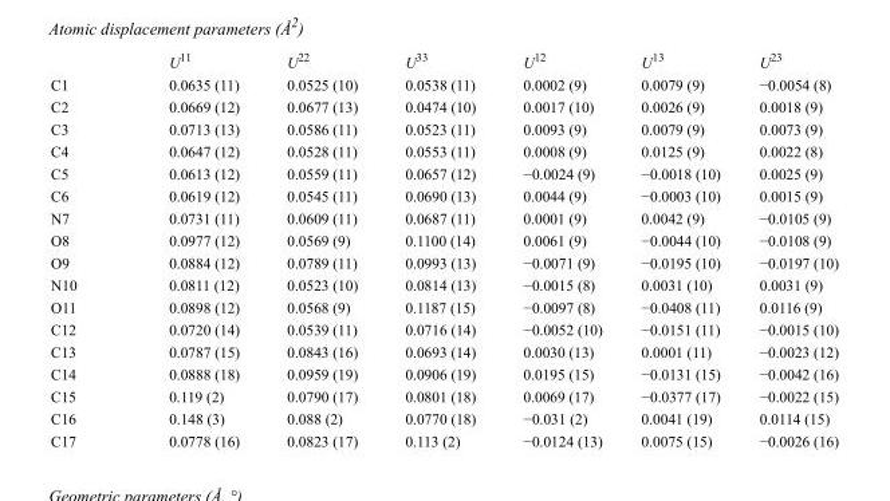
<table><thead><tr><td></td><td>U<sup>11</sup></td><td>U<sup>22</sup></td><td>U<sup>33</sup></td><td>U<sup>12</sup></td><td>U<sup>13</sup></td><td>U<sup>23</sup></td></tr></thead><tbody><tr><td>C1</td><td>0.0635 (11)</td><td>0.0525 (10)</td><td>0.0538 (11)</td><td>0.0002 (9)</td><td>0.0079 (9)</td><td>−0.0054 (8)</td></tr><tr><td>C2</td><td>0.0669 (12)</td><td>0.0677 (13)</td><td>0.0474 (10)</td><td>0.0017 (10)</td><td>0.0026 (9)</td><td>0.0018 (9)</td></tr><tr><td>C3</td><td>0.0713 (13)</td><td>0.0586 (11)</td><td>0.0523 (11)</td><td>0.0093 (9)</td><td>0.0079 (9)</td><td>0.0073 (9)</td></tr><tr><td>C4</td><td>0.0647 (12)</td><td>0.0528 (11)</td><td>0.0553 (11)</td><td>0.0008 (9)</td><td>0.0125 (9)</td><td>0.0022 (8)</td></tr><tr><td>C5</td><td>0.0613 (12)</td><td>0.0559 (11)</td><td>0.0657 (12)</td><td>−0.0024 (9)</td><td>−0.0018 (10)</td><td>0.0025 (9)</td></tr><tr><td>C6</td><td>0.0619 (12)</td><td>0.0545 (11)</td><td>0.0690 (13)</td><td>0.0044 (9)</td><td>−0.0003 (10)</td><td>0.0015 (9)</td></tr><tr><td>N7</td><td>0.0731 (11)</td><td>0.0609 (11)</td><td>0.0687 (11)</td><td>0.0001 (9)</td><td>0.0042 (9)</td><td>−0.0105 (9)</td></tr><tr><td>O8</td><td>0.0977 (12)</td><td>0.0569 (9)</td><td>0.1100 (14)</td><td>0.0061 (9)</td><td>−0.0044 (10)</td><td>−0.0108 (9)</td></tr><tr><td>O9</td><td>0.0884 (12)</td><td>0.0789 (11)</td><td>0.0993 (13)</td><td>−0.0071 (9)</td><td>−0.0195 (10)</td><td>−0.0197 (10)</td></tr><tr><td>N10</td><td>0.0811 (12)</td><td>0.0523 (10)</td><td>0.0814 (13)</td><td>−0.0015 (8)</td><td>0.0031 (10)</td><td>0.0031 (9)</td></tr><tr><td>O11</td><td>0.0898 (12)</td><td>0.0568 (9)</td><td>0.1187 (15)</td><td>−0.0097 (8)</td><td>−0.0408 (11)</td><td>0.0116 (9)</td></tr><tr><td>C12</td><td>0.0720 (14)</td><td>0.0539 (11)</td><td>0.0716 (14)</td><td>−0.0052 (10)</td><td>−0.0151 (11)</td><td>−0.0015 (10)</td></tr><tr><td>C13</td><td>0.0787 (15)</td><td>0.0843 (16)</td><td>0.0693 (14)</td><td>0.0030 (13)</td><td>0.0001 (11)</td><td>−0.0023 (12)</td></tr><tr><td>C14</td><td>0.0888 (18)</td><td>0.0959 (19)</td><td>0.0906 (19)</td><td>0.0195 (15)</td><td>−0.0131 (15)</td><td>−0.0042 (16)</td></tr><tr><td>C15</td><td>0.119 (2)</td><td>0.0790 (17)</td><td>0.0801 (18)</td><td>0.0069 (17)</td><td>−0.0377 (17)</td><td>−0.0022 (15)</td></tr><tr><td>C16</td><td>0.148 (3)</td><td>0.088 (2)</td><td>0.0770 (18)</td><td>−0.031 (2)</td><td>0.0041 (19)</td><td>0.0114 (15)</td></tr><tr><td>C17</td><td>0.0778 (16)</td><td>0.0823 (17)</td><td>0.113 (2)</td><td>−0.0124 (13)</td><td>0.0075 (15)</td><td>−0.0026 (16)</td></tr></tbody></table>